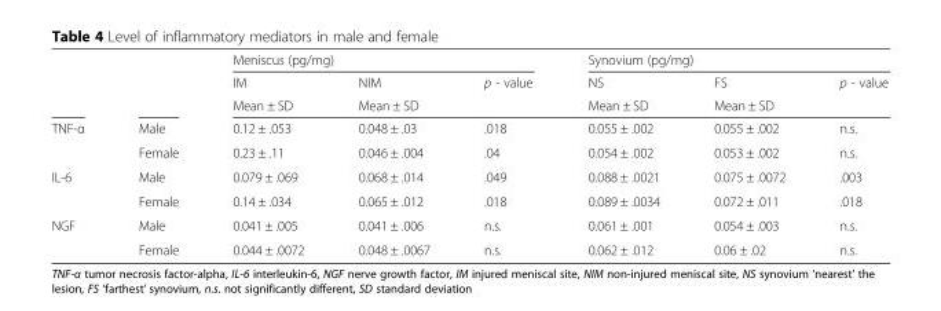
<table><thead><tr><td rowspan="3"></td><td rowspan="3"></td><td colspan="3">Meniscus (pg/mg)</td><td colspan="3">Synovium (pg/mg)</td></tr><tr><td rowspan="2">IM Mean ± SD</td><td rowspan="2">NIM Mean ± SD</td><td rowspan="2">p - value</td><td rowspan="2">NS Mean ± SD</td><td rowspan="2">FS Mean ± SD</td><td rowspan="2">p - value</td></tr><tr></tr></thead><tbody><tr><td rowspan="2">TNF-α</td><td>Male</td><td>0.12 ± .053</td><td>0.048 ± .03</td><td>.018</td><td>0.055 ± .002</td><td>0.055 ± .002</td><td>n.s.</td></tr><tr><td>Female</td><td>0.23 ± .11</td><td>0.046 ± .004</td><td>.04</td><td>0.054 ± .002</td><td>0.053 ± .002</td><td>n.s.</td></tr><tr><td rowspan="2">IL-6</td><td>Male</td><td>0.079 ± .069</td><td>0.068 ± .014</td><td>.049</td><td>0.088 ± .0021</td><td>0.075 ± .0072</td><td>.003</td></tr><tr><td>Female</td><td>0.14 ± .034</td><td>0.065 ± .012</td><td>.018</td><td>0.089 ± .0034</td><td>0.072 ± .011</td><td>.018</td></tr><tr><td rowspan="2">NGF</td><td>Male</td><td>0.041 ± .005</td><td>0.041 ± .006</td><td>n.s.</td><td>0.061 ± .001</td><td>0.054 ± .003</td><td>n.s.</td></tr><tr><td>Female</td><td>0.044 ± .0072</td><td>0.048 ± .0067</td><td>n.s.</td><td>0.062 ± .012</td><td>0.06 ± .02</td><td>n.s.</td></tr></tbody></table>